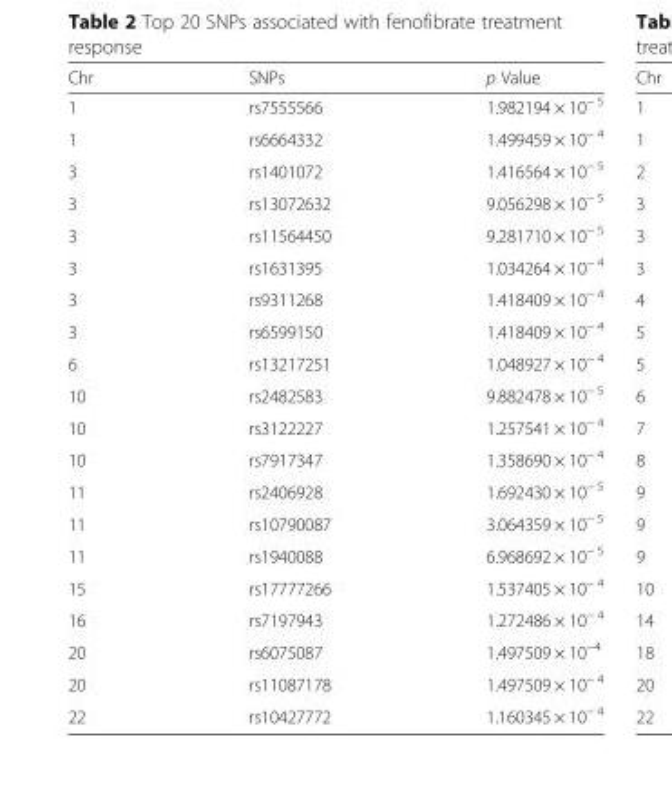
<table><thead><tr><td>Chr</td><td>SNPs</td><td>p Value</td></tr></thead><tbody><tr><td>1</td><td>rs7555566</td><td>1.982194 × 10<sup>− 5</sup></td></tr><tr><td>1</td><td>rs6664332</td><td>1.499459 × 10<sup>− 4</sup></td></tr><tr><td>3</td><td>rs1401072</td><td>1.416564 × 10<sup>− 5</sup></td></tr><tr><td>3</td><td>rs13072632</td><td>9.056298 × 10<sup>− 5</sup></td></tr><tr><td>3</td><td>rs11564450</td><td>9.281710 × 10<sup>− 5</sup></td></tr><tr><td>3</td><td>rs1631395</td><td>1.034264 × 10<sup>− 4</sup></td></tr><tr><td>3</td><td>rs9311268</td><td>1.418409 × 10<sup>− 4</sup></td></tr><tr><td>3</td><td>rs6599150</td><td>1.418409 × 10<sup>− 4</sup></td></tr><tr><td>6</td><td>rs13217251</td><td>1.048927 × 10<sup>− 4</sup></td></tr><tr><td>10</td><td>rs2482583</td><td>9.882478 × 10<sup>− 5</sup></td></tr><tr><td>10</td><td>rs3122227</td><td>1.257541 × 10<sup>− 4</sup></td></tr><tr><td>10</td><td>rs7917347</td><td>1.358690 × 10<sup>− 4</sup></td></tr><tr><td>11</td><td>rs2406928</td><td>1.692430 × 10<sup>− 5</sup></td></tr><tr><td>11</td><td>rs10790087</td><td>3.064359 × 10<sup>− 5</sup></td></tr><tr><td>11</td><td>rs1940088</td><td>6.968692 × 10<sup>− 5</sup></td></tr><tr><td>15</td><td>rs17777266</td><td>1.537405 × 10<sup>− 4</sup></td></tr><tr><td>16</td><td>rs7197943</td><td>1.272486 × 10<sup>− 4</sup></td></tr><tr><td>20</td><td>rs6075087</td><td>1.497509 × 10<sup>−4</sup></td></tr><tr><td>20</td><td>rs11087178</td><td>1.497509 × 10<sup>− 4</sup></td></tr><tr><td>22</td><td>rs10427772</td><td>1.160345 × 10<sup>− 4</sup></td></tr></tbody></table>